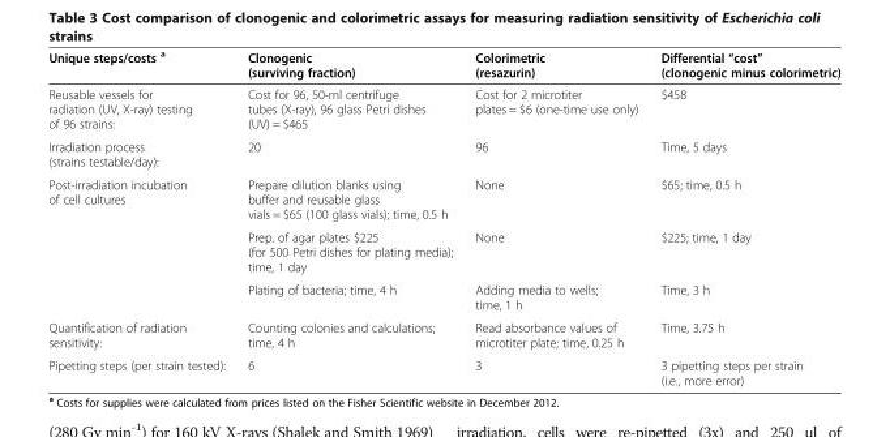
<table><thead><tr><td>Unique steps/costs <sup>a</sup></td><td>Clonogenic (surviving fraction)</td><td>Colorimetric (resazurin)</td><td>Differential “cost” (clonogenic minus colorimetric)</td></tr></thead><tbody><tr><td>Reusable vessels for radiation (UV, X-ray) testing of 96 strains:</td><td>Cost for 96, 50-ml centrifuge tubes (X-ray), 96 glass Petri dishes (UV) = $465</td><td>Cost for 2 microtiter plates = $6 (one-time use only)</td><td>$458</td></tr><tr><td>Irradiation process (strains testable/day):</td><td>20</td><td>96</td><td>Time, 5 days</td></tr><tr><td rowspan="3">Post-irradiation incubation of cell cultures</td><td>Prepare dilution blanks using buffer and reusable glass vials = $65 (100 glass vials); time, 0.5 h</td><td>None</td><td>$65; time, 0.5 h</td></tr><tr><td>Prep. of agar plates $225 (for 500 Petri dishes for plating media); time, 1 day</td><td>None</td><td>$225; time, 1 day</td></tr><tr><td>Plating of bacteria; time, 4 h</td><td>Adding media to wells; time, 1 h</td><td>Time, 3 h</td></tr><tr><td>Quantification of radiation sensitivity:</td><td>Counting colonies and calculations; time, 4 h</td><td>Read absorbance values of microtiter plate; time, 0.25 h</td><td>Time, 3.75 h</td></tr><tr><td>Pipetting steps (per strain tested):</td><td>6</td><td>3</td><td>3 pipetting steps per strain (i.e., more error)</td></tr></tbody></table>